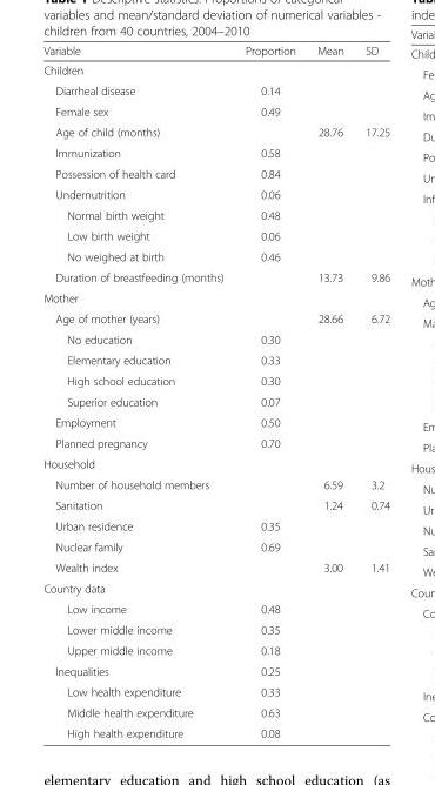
<table><thead><tr><td>Variable</td><td>Proportion</td><td>Mean</td><td>SD</td></tr></thead><tbody><tr><td colspan="4">Children</td></tr><tr><td>Diarrheal disease</td><td>0.14</td><td></td><td></td></tr><tr><td>Female sex</td><td>0.49</td><td></td><td></td></tr><tr><td>Age of child (months)</td><td></td><td>28.76</td><td>17.25</td></tr><tr><td>Immunization</td><td>0.58</td><td></td><td></td></tr><tr><td>Possession of health card</td><td>0.84</td><td></td><td></td></tr><tr><td>Undernutrition</td><td>0.06</td><td></td><td></td></tr><tr><td>Normal birth weight</td><td>0.48</td><td></td><td></td></tr><tr><td>Low birth weight</td><td>0.06</td><td></td><td></td></tr><tr><td>No weighed at birth</td><td>0.46</td><td></td><td></td></tr><tr><td>Duration of breastfeeding (months)</td><td></td><td>13.73</td><td>9.86</td></tr><tr><td colspan="4">Mother</td></tr><tr><td>Age of mother (years)</td><td></td><td>28.66</td><td>6.72</td></tr><tr><td>No education</td><td>0.30</td><td></td><td></td></tr><tr><td>Elementary education</td><td>0.33</td><td></td><td></td></tr><tr><td>High school education</td><td>0.30</td><td></td><td></td></tr><tr><td>Superior education</td><td>0.07</td><td></td><td></td></tr><tr><td>Employment</td><td>0.50</td><td></td><td></td></tr><tr><td>Planned pregnancy</td><td>0.70</td><td></td><td></td></tr><tr><td colspan="4">Household</td></tr><tr><td>Number of household members</td><td></td><td>6.59</td><td>3.2</td></tr><tr><td>Sanitation</td><td></td><td>1.24</td><td>0.74</td></tr><tr><td>Urban residence</td><td>0.35</td><td></td><td></td></tr><tr><td>Nuclear family</td><td>0.69</td><td></td><td></td></tr><tr><td>Wealth index</td><td></td><td>3.00</td><td>1.41</td></tr><tr><td colspan="4">Country data</td></tr><tr><td>Low income</td><td>0.48</td><td></td><td></td></tr><tr><td>Lower middle income</td><td>0.35</td><td></td><td></td></tr><tr><td>Upper middle income</td><td>0.18</td><td></td><td></td></tr><tr><td>Inequalities</td><td>0.25</td><td></td><td></td></tr><tr><td>Low health expenditure</td><td>0.33</td><td></td><td></td></tr><tr><td>Middle health expenditure</td><td>0.63</td><td></td><td></td></tr><tr><td>High health expenditure</td><td>0.08</td><td></td><td></td></tr></tbody></table>